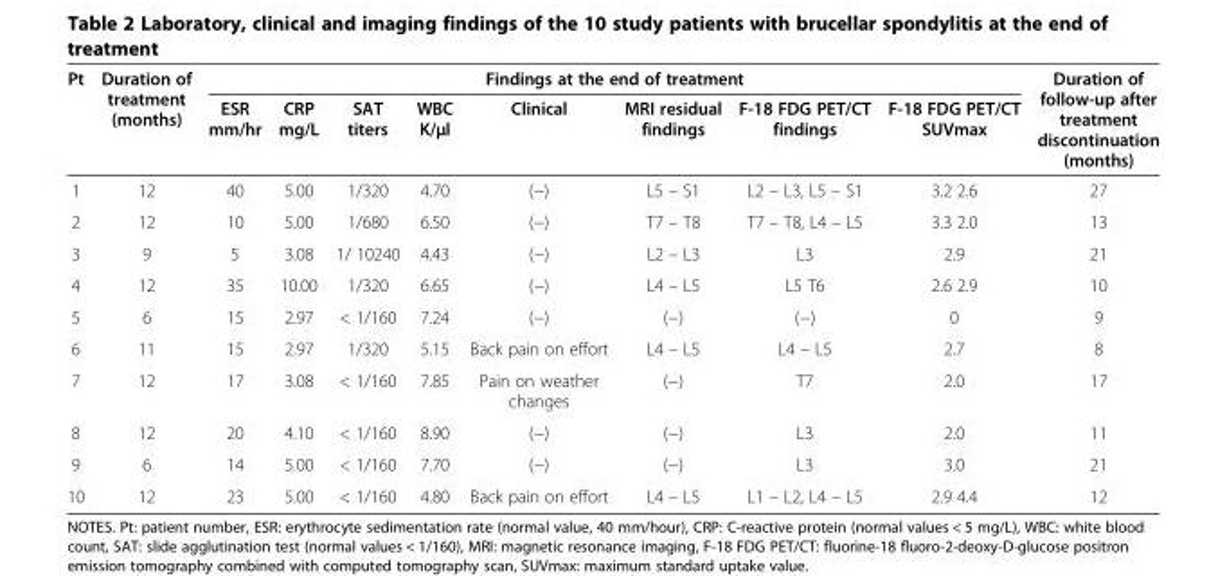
<table><thead><tr><td rowspan="2">Pt</td><td rowspan="2">Duration of treatment (months)</td><td colspan="8">Findings at the end of treatment</td><td rowspan="2">Duration of follow-up after treatment discontinuation (months)</td></tr><tr><td>ESR mm/hr</td><td>CRP mg/L</td><td>SAT titers</td><td>WBC K/μl</td><td>Clinical</td><td>MRI residual findings</td><td>F-18 FDG PET/CT findings</td><td>F-18 FDG PET/CT SUVmax</td></tr></thead><tbody><tr><td>1</td><td>12</td><td>40</td><td>5.00</td><td>1/320</td><td>4.70</td><td>(−)</td><td>L5 – S1</td><td>L2 – L3, L5 – S1</td><td>3.2 2.6</td><td>27</td></tr><tr><td>2</td><td>12</td><td>10</td><td>5.00</td><td>1/680</td><td>6.50</td><td>(−)</td><td>T7 – T8</td><td>T7 – T8, L4 – L5</td><td>3.3 2.0</td><td>13</td></tr><tr><td>3</td><td>9</td><td>5</td><td>3.08</td><td>1/ 10240</td><td>4.43</td><td>(−)</td><td>L2 – L3</td><td>L3</td><td>2.9</td><td>21</td></tr><tr><td>4</td><td>12</td><td>35</td><td>10.00</td><td>1/320</td><td>6.65</td><td>(−)</td><td>L4 – L5</td><td>L5 T6</td><td>2.6 2.9</td><td>10</td></tr><tr><td>5</td><td>6</td><td>15</td><td>2.97</td><td>&lt; 1/160</td><td>7.24</td><td>(−)</td><td>(−)</td><td>(−)</td><td>0</td><td>9</td></tr><tr><td>6</td><td>11</td><td>15</td><td>2.97</td><td>1/320</td><td>5.15</td><td>Back pain on effort</td><td>L4 – L5</td><td>L4 – L5</td><td>2.7</td><td>8</td></tr><tr><td>7</td><td>12</td><td>17</td><td>3.08</td><td>&lt; 1/160</td><td>7.85</td><td>Pain on weather changes</td><td>(−)</td><td>T7</td><td>2.0</td><td>17</td></tr><tr><td>8</td><td>12</td><td>20</td><td>4.10</td><td>&lt; 1/160</td><td>8.90</td><td>(−)</td><td>(−)</td><td>L3</td><td>2.0</td><td>11</td></tr><tr><td>9</td><td>6</td><td>14</td><td>5.00</td><td>&lt; 1/160</td><td>7.70</td><td>(−)</td><td>(−)</td><td>L3</td><td>3.0</td><td>21</td></tr><tr><td>10</td><td>12</td><td>23</td><td>5.00</td><td>&lt; 1/160</td><td>4.80</td><td>Back pain on effort</td><td>L4 – L5</td><td>L1 – L2, L4 – L5</td><td>2.9 4.4</td><td>12</td></tr></tbody></table>